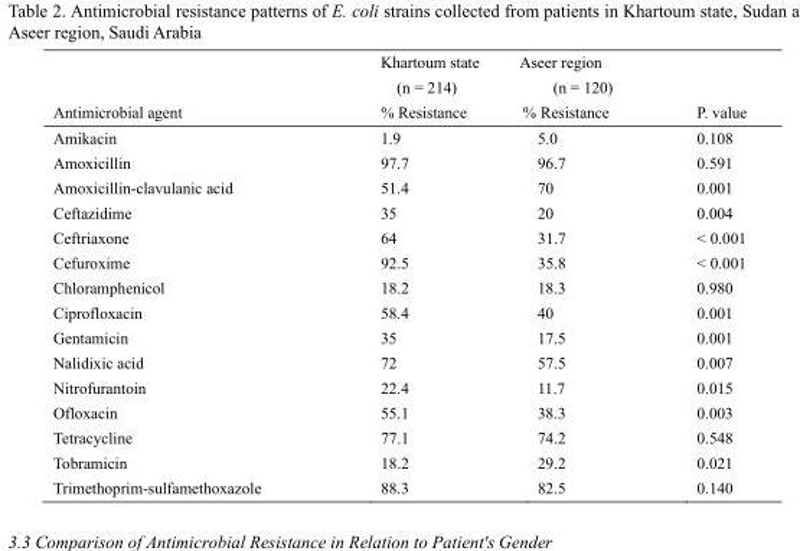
<table><thead><tr><td rowspan="2">Antimicrobial agent</td><td rowspan="2">Khartoum state (n = 214) % Resistance</td><td rowspan="2">Aseer region (n = 120) % Resistance</td><td rowspan="2">P. value</td></tr><tr></tr></thead><tbody><tr><td>Amikacin</td><td>1.9</td><td>5.0</td><td>0.108</td></tr><tr><td>Amoxicillin</td><td>97.7</td><td>96.7</td><td>0.591</td></tr><tr><td>Amoxicillin-clavulanic acid</td><td>51.4</td><td>70</td><td>0.001</td></tr><tr><td>Ceftazidime</td><td>35</td><td>20</td><td>0.004</td></tr><tr><td>Ceftriaxone</td><td>64</td><td>31.7</td><td>&lt; 0.001</td></tr><tr><td>Cefuroxime</td><td>92.5</td><td>35.8</td><td>&lt; 0.001</td></tr><tr><td>Chloramphenicol</td><td>18.2</td><td>18.3</td><td>0.980</td></tr><tr><td>Ciprofloxacin</td><td>58.4</td><td>40</td><td>0.001</td></tr><tr><td>Gentamicin</td><td>35</td><td>17.5</td><td>0.001</td></tr><tr><td>Nalidixic acid</td><td>72</td><td>57.5</td><td>0.007</td></tr><tr><td>Nitrofurantoin</td><td>22.4</td><td>11.7</td><td>0.015</td></tr><tr><td>Ofloxacin</td><td>55.1</td><td>38.3</td><td>0.003</td></tr><tr><td>Tetracycline</td><td>77.1</td><td>74.2</td><td>0.548</td></tr><tr><td>Tobramicin</td><td>18.2</td><td>29.2</td><td>0.021</td></tr><tr><td>Trimethoprim-sulfamethoxazole</td><td>88.3</td><td>82.5</td><td>0.140</td></tr></tbody></table>